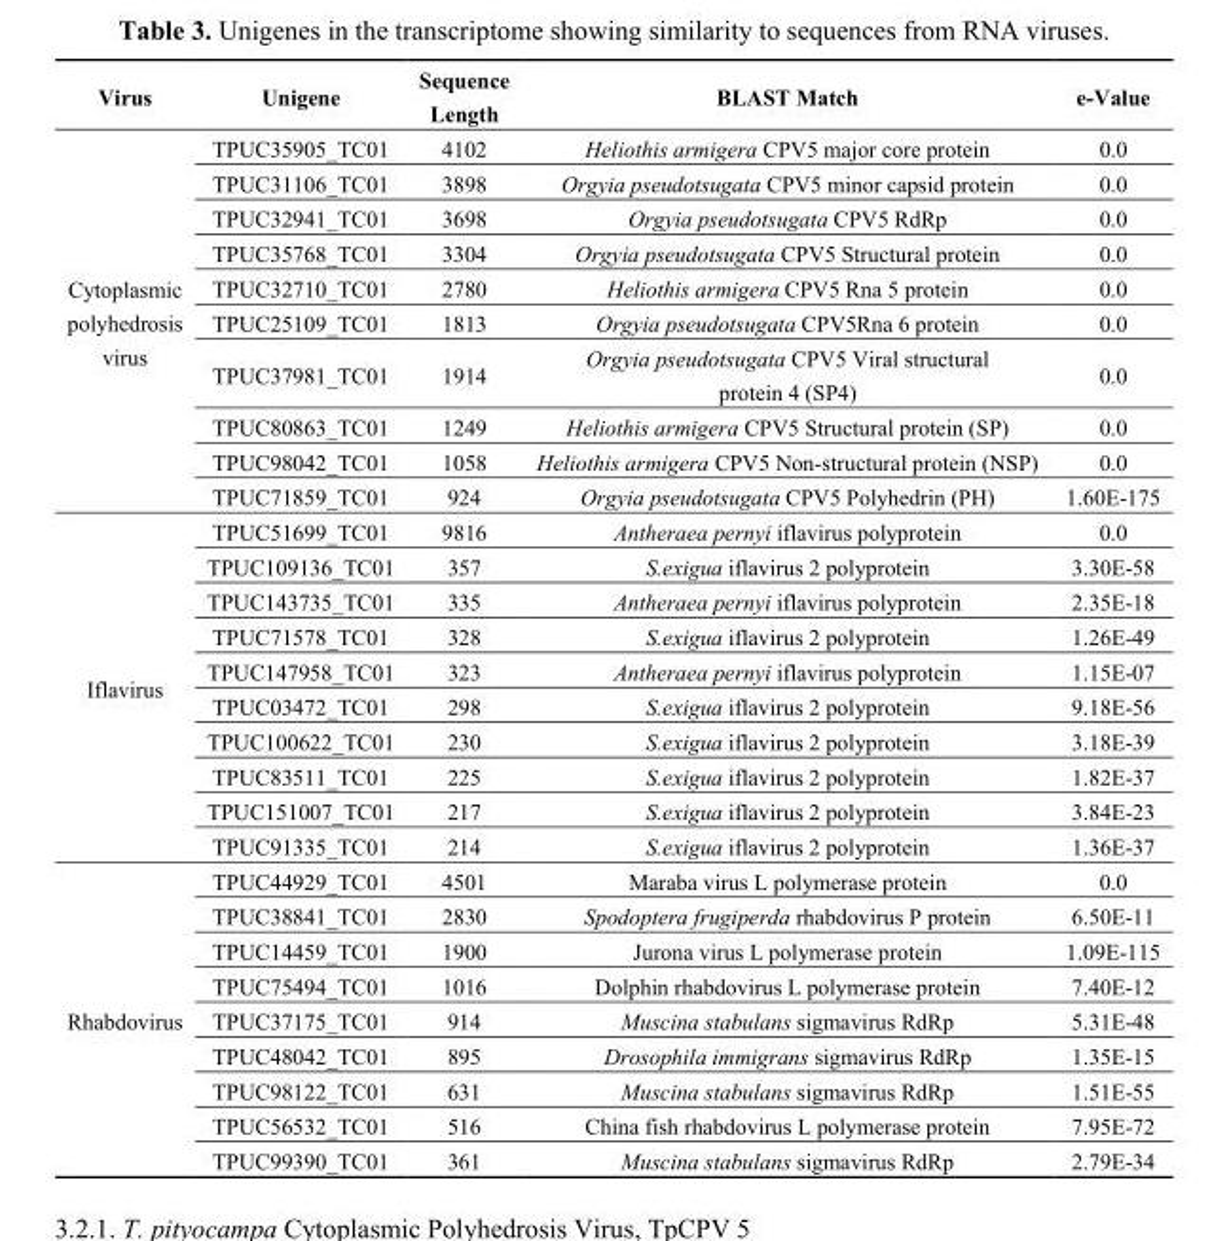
<table><thead><tr><td>Virus</td><td>Unigene</td><td>Sequence Length</td><td>BLAST Match</td><td>e-Value</td></tr></thead><tbody><tr><td rowspan="10">Cytoplasmic polyhedrosis virus</td><td>TPUC35905_TC01</td><td>4102</td><td>Heliothis armigera CPV5 major core protein</td><td>0.0</td></tr><tr><td>TPUC31106_TC01</td><td>3898</td><td>Orgyia pseudotsugata CPV5 minor capsid protein</td><td>0.0</td></tr><tr><td>TPUC32941_TC01</td><td>3698</td><td>Orgyia pseudotsugata CPV5 RdRp</td><td>0.0</td></tr><tr><td>TPUC35768_TC01</td><td>3304</td><td>Orgyia pseudotsugata CPV5 Structural protein</td><td>0.0</td></tr><tr><td>TPUC32710_TC01</td><td>2780</td><td>Heliothis armigera CPV5 Rna 5 protein</td><td>0.0</td></tr><tr><td>TPUC25109_TC01</td><td>1813</td><td>Orgyia pseudotsugata CPV5Rna 6 protein</td><td>0.0</td></tr><tr><td>TPUC37981_TC01</td><td>1914</td><td>Orgyia pseudotsugata CPV5 Viral structural protein 4 (SP4)</td><td>0.0</td></tr><tr><td>TPUC80863_TC01</td><td>1249</td><td>Heliothis armigera CPV5 Structural protein (SP)</td><td>0.0</td></tr><tr><td>TPUC98042_TC01</td><td>1058</td><td>Heliothis armigera CPV5 Non-structural protein (NSP)</td><td>0.0</td></tr><tr><td>TPUC71859_TC01</td><td>924</td><td>Orgyia pseudotsugata CPV5 Polyhedrin (PH)</td><td>1.60E-175</td></tr><tr><td rowspan="10">Iflavirus</td><td>TPUC51699_TC01</td><td>9816</td><td>Antheraea pernyi iflavirus polyprotein</td><td>0.0</td></tr><tr><td>TPUC109136_TC01</td><td>357</td><td>S.exigua iflavirus 2 polyprotein</td><td>3.30E-58</td></tr><tr><td>TPUC143735_TC01</td><td>335</td><td>Antheraea pernyi iflavirus polyprotein</td><td>2.35E-18</td></tr><tr><td>TPUC71578_TC01</td><td>328</td><td>S.exigua iflavirus 2 polyprotein</td><td>1.26E-49</td></tr><tr><td>TPUC147958_TC01</td><td>323</td><td>Antheraea pernyi iflavirus polyprotein</td><td>1.15E-07</td></tr><tr><td>TPUC03472_TC01</td><td>298</td><td>S.exigua iflavirus 2 polyprotein</td><td>9.18E-56</td></tr><tr><td>TPUC100622_TC01</td><td>230</td><td>S.exigua iflavirus 2 polyprotein</td><td>3.18E-39</td></tr><tr><td>TPUC83511_TC01</td><td>225</td><td>S.exigua iflavirus 2 polyprotein</td><td>1.82E-37</td></tr><tr><td>TPUC151007_TC01</td><td>217</td><td>S.exigua iflavirus 2 polyprotein</td><td>3.84E-23</td></tr><tr><td>TPUC91335_TC01</td><td>214</td><td>S.exigua iflavirus 2 polyprotein</td><td>1.36E-37</td></tr><tr><td rowspan="9">Rhabdovirus</td><td>TPUC44929_TC01</td><td>4501</td><td>Maraba virus L polymerase protein</td><td>0.0</td></tr><tr><td>TPUC38841_TC01</td><td>2830</td><td>Spodoptera frugiperda rhabdovirus P protein</td><td>6.50E-11</td></tr><tr><td>TPUC14459_TC01</td><td>1900</td><td>Jurona virus L polymerase protein</td><td>1.09E-115</td></tr><tr><td>TPUC75494_TC01</td><td>1016</td><td>Dolphin rhabdovirus L polymerase protein</td><td>7.40E-12</td></tr><tr><td>TPUC37175_TC01</td><td>914</td><td>Muscina stabulans sigmavirus RdRp</td><td>5.31E-48</td></tr><tr><td>TPUC48042_TC01</td><td>895</td><td>Drosophila immigrans sigmavirus RdRp</td><td>1.35E-15</td></tr><tr><td>TPUC98122_TC01</td><td>631</td><td>Muscina stabulans sigmavirus RdRp</td><td>1.51E-55</td></tr><tr><td>TPUC56532_TC01</td><td>516</td><td>China fish rhabdovirus L polymerase protein</td><td>7.95E-72</td></tr><tr><td>TPUC99390_TC01</td><td>361</td><td>Muscina stabulans sigmavirus RdRp</td><td>2.79E-34</td></tr></tbody></table>